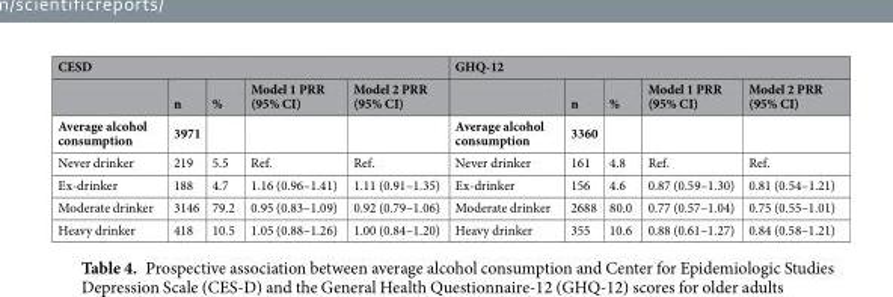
<table><thead><tr><td colspan="5">CESD</td><td colspan="5">GHQ-12</td></tr><tr><td></td><td>n</td><td>%</td><td>Model 1 PRR (95% CI)</td><td>Model 2 PRR (95% CI)</td><td></td><td>n</td><td>%</td><td>Model 1 PRR (95% CI)</td><td>Model 2 PRR (95% CI)</td></tr></thead><tbody><tr><td>Average alcohol consumption</td><td>3971</td><td></td><td></td><td></td><td>Average alcohol consumption</td><td>3360</td><td></td><td></td><td></td></tr><tr><td>Never drinker</td><td>219</td><td>5.5</td><td>Ref.</td><td>Ref.</td><td>Never drinker</td><td>161</td><td>4.8</td><td>Ref.</td><td>Ref.</td></tr><tr><td>Ex-drinker</td><td>188</td><td>4.7</td><td>1.16 (0.96–1.41)</td><td>1.11 (0.91–1.35)</td><td>Ex-drinker</td><td>156</td><td>4.6</td><td>0.87 (0.59–1.30)</td><td>0.81 (0.54–1.21)</td></tr><tr><td>Moderate drinker</td><td>3146</td><td>79.2</td><td>0.95 (0.83–1.09)</td><td>0.92 (0.79–1.06)</td><td>Moderate drinker</td><td>2688</td><td>80.0</td><td>0.77 (0.57–1.04)</td><td>0.75 (0.55–1.01)</td></tr><tr><td>Heavy drinker</td><td>418</td><td>10.5</td><td>1.05 (0.88–1.26)</td><td>1.00 (0.84–1.20)</td><td>Heavy drinker</td><td>355</td><td>10.6</td><td>0.88 (0.61–1.27)</td><td>0.84 (0.58–1.21)</td></tr></tbody></table>